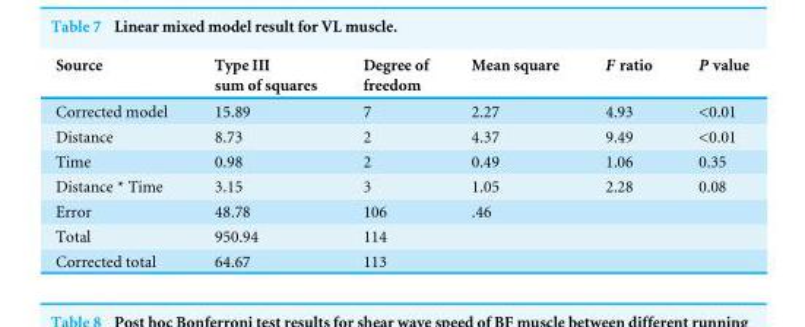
<table><thead><tr><td>Source</td><td>Type III sum of squares</td><td>Degree of freedom</td><td>Mean square</td><td>F ratio</td><td>P value</td></tr></thead><tbody><tr><td>Corrected model</td><td>15.89</td><td>7</td><td>2.27</td><td>4.93</td><td>&lt;0.01</td></tr><tr><td>Distance</td><td>8.73</td><td>2</td><td>4.37</td><td>9.49</td><td>&lt;0.01</td></tr><tr><td>Time</td><td>0.98</td><td>2</td><td>0.49</td><td>1.06</td><td>0.35</td></tr><tr><td>Distance * Time</td><td>3.15</td><td>3</td><td>1.05</td><td>2.28</td><td>0.08</td></tr><tr><td>Error</td><td>48.78</td><td>106</td><td>.46</td><td></td><td></td></tr><tr><td>Total</td><td>950.94</td><td>114</td><td></td><td></td><td></td></tr><tr><td>Corrected total</td><td>64.67</td><td>113</td><td></td><td></td><td></td></tr></tbody></table>